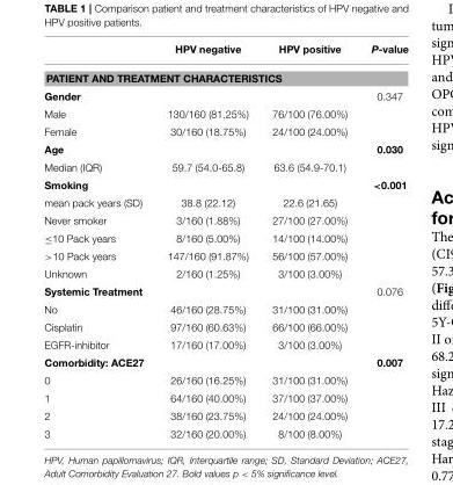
<table><thead><tr><td></td><td>HPV negative</td><td>HPV positive</td><td>P-value</td></tr></thead><tbody><tr><td colspan="4">PATIENT AND TREATMENT CHARACTERISTICS</td></tr><tr><td>Gender</td><td></td><td></td><td>0.347</td></tr><tr><td>Male</td><td>130/160 (81.25%)</td><td>76/100 (76.00%)</td><td></td></tr><tr><td>Female</td><td>30/160 (18.75%)</td><td>24/100 (24.00%)</td><td></td></tr><tr><td>Age</td><td></td><td></td><td>0.030</td></tr><tr><td>Median (IQR)</td><td>59.7 (54.0-65.8)</td><td>63.6 (54.9-70.1)</td><td></td></tr><tr><td>Smoking</td><td></td><td></td><td>&lt;0.001</td></tr><tr><td>mean pack years (SD)</td><td>38.8 (22.12)</td><td>22.6 (21.65)</td><td></td></tr><tr><td>Never smoker</td><td>3/160 (1.88%)</td><td>27/100 (27.00%)</td><td></td></tr><tr><td>≤10 Pack years</td><td>8/160 (5.00%)</td><td>14/100 (14.00%)</td><td></td></tr><tr><td>&gt;10 Pack years</td><td>147/160 (91.87%)</td><td>56/100 (57.00%)</td><td></td></tr><tr><td>Unknown</td><td>2/160 (1.25%)</td><td>3/100 (3.00%)</td><td></td></tr><tr><td>Systemic Treatment</td><td></td><td></td><td>0.076</td></tr><tr><td>No</td><td>46/160 (28.75%)</td><td>31/100 (31.00%)</td><td></td></tr><tr><td>Cisplatin</td><td>97/160 (60.63%)</td><td>66/100 (66.00%)</td><td></td></tr><tr><td>EGFR-inhibitor</td><td>17/160 (17.00%)</td><td>3/100 (3.00%)</td><td></td></tr><tr><td>Comorbidity: ACE27</td><td></td><td></td><td>0.007</td></tr><tr><td>0</td><td>26/160 (16.25%)</td><td>31/100 (31.00%)</td><td></td></tr><tr><td>1</td><td>64/160 (40.00%)</td><td>37/100 (37.00%)</td><td></td></tr><tr><td>2</td><td>38/160 (23.75%)</td><td>24/100 (24.00%)</td><td></td></tr><tr><td>3</td><td>32/160 (20.00%)</td><td>8/100 (8.00%)</td><td></td></tr></tbody></table>